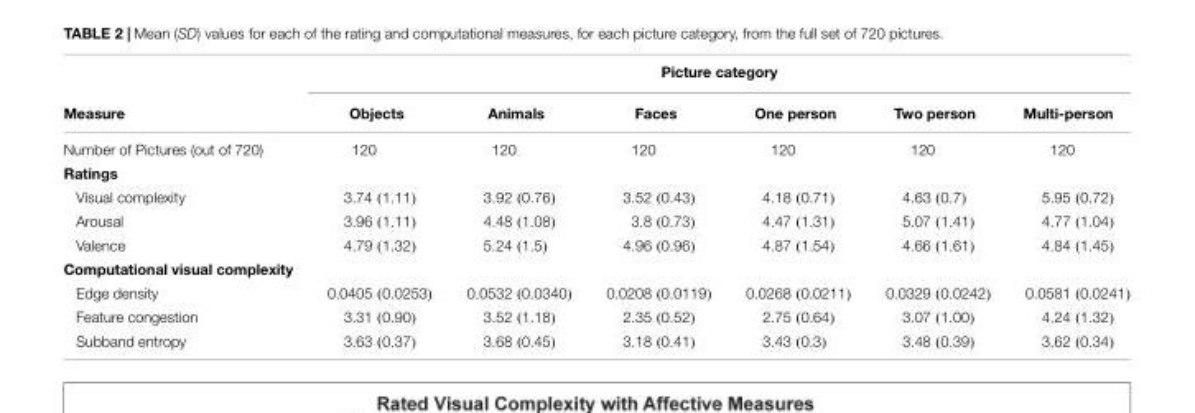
<table><thead><tr><td rowspan="2">Measure</td><td colspan="6">Picture category</td></tr><tr><td>Objects</td><td>Animals</td><td>Faces</td><td>One person</td><td>Two person</td><td>Multi-person</td></tr></thead><tbody><tr><td>Number of Pictures (out of 720)</td><td>120</td><td>120</td><td>120</td><td>120</td><td>120</td><td>120</td></tr><tr><td colspan="7">Ratings</td></tr><tr><td>Visual complexity</td><td>3.74 (1.11)</td><td>3.92 (0.76)</td><td>3.52 (0.43)</td><td>4.18 (0.71)</td><td>4.63 (0.7)</td><td>5.95 (0.72)</td></tr><tr><td>Arousal</td><td>3.96 (1.11)</td><td>4.48 (1.08)</td><td>3.8 (0.73)</td><td>4.47 (1.31)</td><td>5.07 (1.41)</td><td>4.77 (1.04)</td></tr><tr><td>Valence</td><td>4.79 (1.32)</td><td>5.24 (1.5)</td><td>4.96 (0.96)</td><td>4.87 (1.54)</td><td>4.66 (1.61)</td><td>4.84 (1.45)</td></tr><tr><td colspan="7">Computational visual complexity</td></tr><tr><td>Edge density</td><td>0.0405 (0.0253)</td><td>0.0532 (0.0340)</td><td>0.0208 (0.0119)</td><td>0.0268 (0.0211)</td><td>0.0329 (0.0242)</td><td>0.0581 (0.0241)</td></tr><tr><td>Feature congestion</td><td>3.31 (0.90)</td><td>3.52 (1.18)</td><td>2.35 (0.52)</td><td>2.75 (0.64)</td><td>3.07 (1.00)</td><td>4.24 (1.32)</td></tr><tr><td>Subband entropy</td><td>3.63 (0.37)</td><td>3.68 (0.45)</td><td>3.18 (0.41)</td><td>3.43 (0.3)</td><td>3.48 (0.39)</td><td>3.62 (0.34)</td></tr></tbody></table>